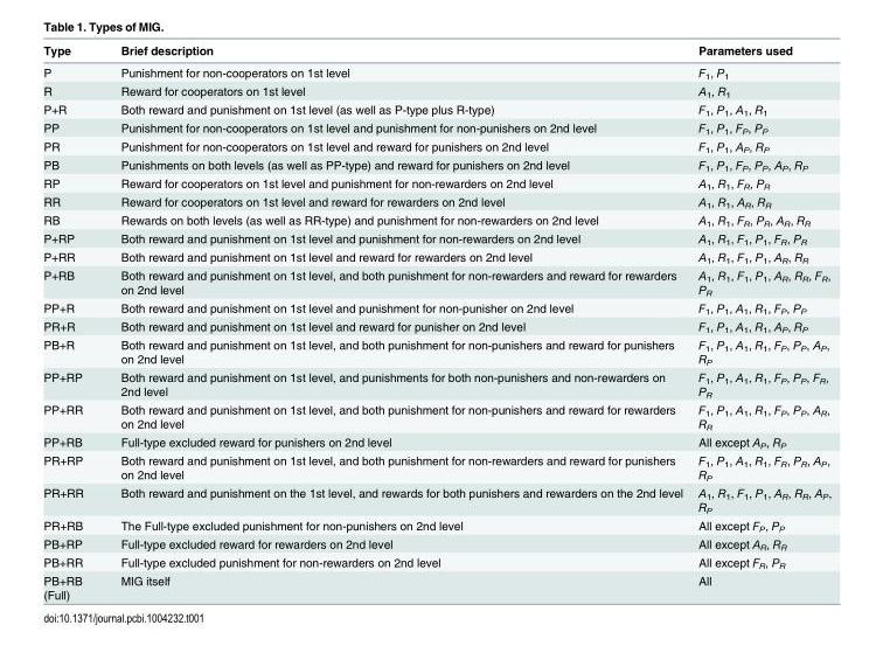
<table><thead><tr><td>Type</td><td>Brief description</td><td>Parameters used</td></tr></thead><tbody><tr><td>P</td><td>Punishment for non-cooperators on 1st level</td><td>F<sub>1</sub>, P<sub>1</sub></td></tr><tr><td>R</td><td>Reward for cooperators on 1st level</td><td>A<sub>1</sub>, R<sub>1</sub></td></tr><tr><td>P+R</td><td>Both reward and punishment on 1st level (as well as P-type plus R-type)</td><td>F<sub>1</sub>, P<sub>1</sub>, A<sub>1</sub>, R<sub>1</sub></td></tr><tr><td>PP</td><td>Punishment for non-cooperators on 1st level and punishment for non-punishers on 2nd level</td><td>F<sub>1</sub>, P<sub>1</sub>, F<sub>P</sub>, P<sub>P</sub></td></tr><tr><td>PR</td><td>Punishment for non-cooperators on 1st level and reward for punishers on 2nd level</td><td>F<sub>1</sub>, P<sub>1</sub>, A<sub>P</sub>, R<sub>P</sub></td></tr><tr><td>PB</td><td>Punishments on both levels (as well as PP-type) and reward for punishers on 2nd level</td><td>F<sub>1</sub>, P<sub>1</sub>, F<sub>P</sub>, P<sub>P</sub>, A<sub>P</sub>, R<sub>P</sub></td></tr><tr><td>RP</td><td>Reward for cooperators on 1st level and punishment for non-rewarders on 2nd level</td><td>A<sub>1</sub>, R<sub>1</sub>, F<sub>R</sub>, P<sub>R</sub></td></tr><tr><td>RR</td><td>Reward for cooperators on 1st level and reward for rewarders on 2nd level</td><td>A<sub>1</sub>, R<sub>1</sub>, A<sub>R</sub>, R<sub>R</sub></td></tr><tr><td>RB</td><td>Rewards on both levels (as well as RR-type) and punishment for non-rewarders on 2nd level</td><td>A<sub>1</sub>, R<sub>1</sub>, F<sub>R</sub>, P<sub>R</sub>, A<sub>R</sub>, R<sub>R</sub></td></tr><tr><td>P+RP</td><td>Both reward and punishment on 1st level and punishment for non-rewarders on 2nd level</td><td>A<sub>1</sub>, R<sub>1</sub>, F<sub>1</sub>, P<sub>1</sub>, F<sub>R</sub>, P<sub>R</sub></td></tr><tr><td>P+RR</td><td>Both reward and punishment on 1st level and reward for rewarders on 2nd level</td><td>A<sub>1</sub>, R<sub>1</sub>, F<sub>1</sub>, P<sub>1</sub>, A<sub>R</sub>, R<sub>R</sub></td></tr><tr><td>P+RB</td><td>Both reward and punishment on 1st level, and both punishment for non-rewarders and reward for rewarders on 2nd level</td><td>A<sub>1</sub>, R<sub>1</sub>, F<sub>1</sub>, P<sub>1</sub>, A<sub>R</sub>, R<sub>R</sub>, F<sub>R</sub>, P<sub>R</sub></td></tr><tr><td>PP+R</td><td>Both reward and punishment on 1st level and punishment for non-punisher on 2nd level</td><td>F<sub>1</sub>, P<sub>1</sub>, A<sub>1</sub>, R<sub>1</sub>, F<sub>P</sub>, P<sub>P</sub></td></tr><tr><td>PR+R</td><td>Both reward and punishment on 1st level and reward for punisher on 2nd level</td><td>F<sub>1</sub>, P<sub>1</sub>, A<sub>1</sub>, R<sub>1</sub>, A<sub>P</sub>, R<sub>P</sub></td></tr><tr><td>PB+R</td><td>Both reward and punishment on 1st level, and both punishment for non-punishers and reward for punishers on 2nd level</td><td>F<sub>1</sub>, P<sub>1</sub>, A<sub>1</sub>, R<sub>1</sub>, F<sub>P</sub>, P<sub>P</sub>, A<sub>P</sub>, R<sub>P</sub></td></tr><tr><td>PP+RP</td><td>Both reward and punishment on 1st level, and punishments for both non-punishers and non-rewarders on 2nd level</td><td>F<sub>1</sub>, P<sub>1</sub>, A<sub>1</sub>, R<sub>1</sub>, F<sub>P</sub>, P<sub>P</sub>, F<sub>R</sub>, P<sub>R</sub></td></tr><tr><td>PP+RR</td><td>Both reward and punishment on 1st level, and both punishment for non-punishers and reward for rewarders on 2nd level</td><td>F<sub>1</sub>, P<sub>1</sub>, A<sub>1</sub>, R<sub>1</sub>, F<sub>P</sub>, P<sub>P</sub>, A<sub>R</sub>, R<sub>R</sub></td></tr><tr><td>PP+RB</td><td>Full-type excluded reward for punishers on 2nd level</td><td>All except A<sub>P</sub>, R<sub>P</sub></td></tr><tr><td>PR+RP</td><td>Both reward and punishment on 1st level, and both punishment for non-rewarders and reward for punishers on 2nd level</td><td>F<sub>1</sub>, P<sub>1</sub>, A<sub>1</sub>, R<sub>1</sub>, F<sub>R</sub>, P<sub>R</sub>, A<sub>P</sub>, R<sub>P</sub></td></tr><tr><td>PR+RR</td><td>Both reward and punishment on the 1st level, and rewards for both punishers and rewarders on the 2nd level</td><td>A<sub>1</sub>, R<sub>1</sub>, F<sub>1</sub>, P<sub>1</sub>, A<sub>R</sub>, R<sub>R</sub>, A<sub>P</sub>, R<sub>P</sub></td></tr><tr><td>PR+RB</td><td>The Full-type excluded punishment for non-punishers on 2nd level</td><td>All except F<sub>P</sub>, P<sub>P</sub></td></tr><tr><td>PB+RP</td><td>Full-type excluded reward for rewarders on 2nd level</td><td>All except A<sub>R</sub>, R<sub>R</sub></td></tr><tr><td>PB+RR</td><td>Full-type excluded punishment for non-rewarders on 2nd level</td><td>All except F<sub>R</sub>, P<sub>R</sub></td></tr><tr><td>PB+RB (Full)</td><td>MIG itself</td><td>All</td></tr></tbody></table>